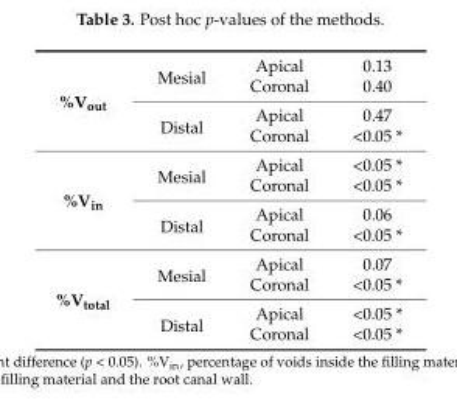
<table><tbody><tr><td rowspan="4">%V<sub>out</sub></td><td rowspan="2">Mesial</td><td>Apical</td><td>0.13</td></tr><tr><td>Coronal</td><td>0.40</td></tr><tr><td rowspan="2">Distal</td><td>Apical</td><td>0.47</td></tr><tr><td>Coronal</td><td>&lt;0.05 *</td></tr><tr><td rowspan="4">%V<sub>in</sub></td><td rowspan="2">Mesial</td><td>Apical</td><td>&lt;0.05 *</td></tr><tr><td>Coronal</td><td>&lt;0.05 *</td></tr><tr><td rowspan="2">Distal</td><td>Apical</td><td>0.06</td></tr><tr><td>Coronal</td><td>&lt;0.05 *</td></tr><tr><td rowspan="4">%V<sub>total</sub></td><td rowspan="2">Mesial</td><td>Apical</td><td>0.07</td></tr><tr><td>Coronal</td><td>&lt;0.05 *</td></tr><tr><td rowspan="2">Distal</td><td>Apical</td><td>&lt;0.05 *</td></tr><tr><td>Coronal</td><td>&lt;0.05 *</td></tr></tbody></table>